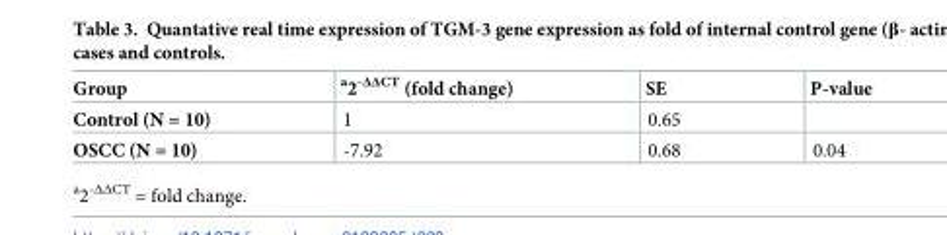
<table><thead><tr><td>Group</td><td><sup>a</sup>2<sup>-ΔΔCT</sup> (fold change)</td><td>SE</td><td>P-value</td></tr></thead><tbody><tr><td>Control (N = 10)</td><td>1</td><td>0.65</td><td></td></tr><tr><td>OSCC (N = 10)</td><td>-7.92</td><td>0.68</td><td>0.04</td></tr></tbody></table>